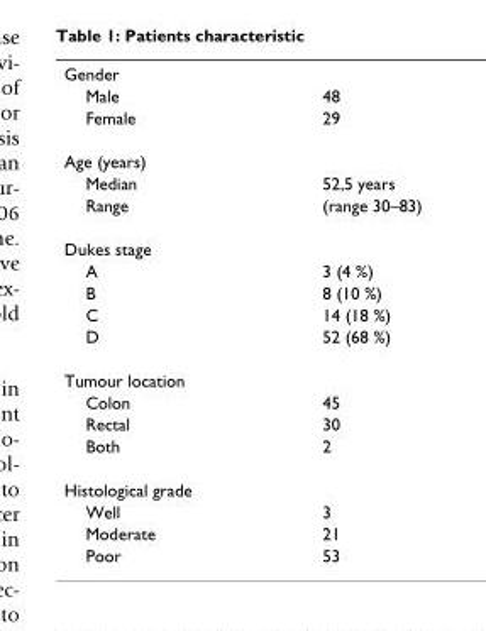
<table><tbody><tr><td colspan="2">Gender</td></tr><tr><td>Male</td><td>48</td></tr><tr><td>Female</td><td>29</td></tr><tr><td colspan="2">Age (years)</td></tr><tr><td>Median</td><td>52,5 years</td></tr><tr><td>Range</td><td>(range 30–83)</td></tr><tr><td colspan="2">Dukes stage</td></tr><tr><td>A</td><td>3 (4 %)</td></tr><tr><td>B</td><td>8 (10 %)</td></tr><tr><td>C</td><td>14 (18 %)</td></tr><tr><td>D</td><td>52 (68 %)</td></tr><tr><td colspan="2">Tumour location</td></tr><tr><td>Colon</td><td>45</td></tr><tr><td>Rectal</td><td>30</td></tr><tr><td>Both</td><td>2</td></tr><tr><td colspan="2">Histological grade</td></tr><tr><td>Well</td><td>3</td></tr><tr><td>Moderate</td><td>21</td></tr><tr><td>Poor</td><td>53</td></tr></tbody></table>